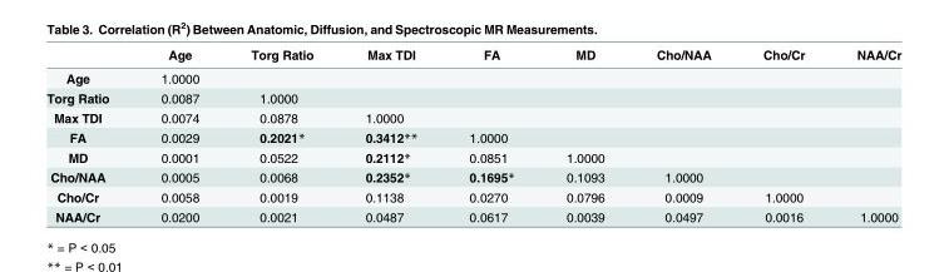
<table><thead><tr><td></td><td>Age</td><td>Torg Ratio</td><td>Max TDI</td><td>FA</td><td>MD</td><td>Cho/NAA</td><td>Cho/Cr</td><td>NAA/Cr</td></tr></thead><tbody><tr><td>Age</td><td>1.0000</td><td></td><td></td><td></td><td></td><td></td><td></td><td></td></tr><tr><td>Torg Ratio</td><td>0.0087</td><td>1.0000</td><td></td><td></td><td></td><td></td><td></td><td></td></tr><tr><td>Max TDI</td><td>0.0074</td><td>0.0878</td><td>1.0000</td><td></td><td></td><td></td><td></td><td></td></tr><tr><td>FA</td><td>0.0029</td><td>0.2021*</td><td>0.3412**</td><td>1.0000</td><td></td><td></td><td></td><td></td></tr><tr><td>MD</td><td>0.0001</td><td>0.0522</td><td>0.2112*</td><td>0.0851</td><td>1.0000</td><td></td><td></td><td></td></tr><tr><td>Cho/NAA</td><td>0.0005</td><td>0.0068</td><td>0.2352*</td><td>0.1695*</td><td>0.1093</td><td>1.0000</td><td></td><td></td></tr><tr><td>Cho/Cr</td><td>0.0058</td><td>0.0019</td><td>0.1138</td><td>0.0270</td><td>0.0796</td><td>0.0009</td><td>1.0000</td><td></td></tr><tr><td>NAA/Cr</td><td>0.0200</td><td>0.0021</td><td>0.0487</td><td>0.0617</td><td>0.0039</td><td>0.0497</td><td>0.0016</td><td>1.0000</td></tr></tbody></table>